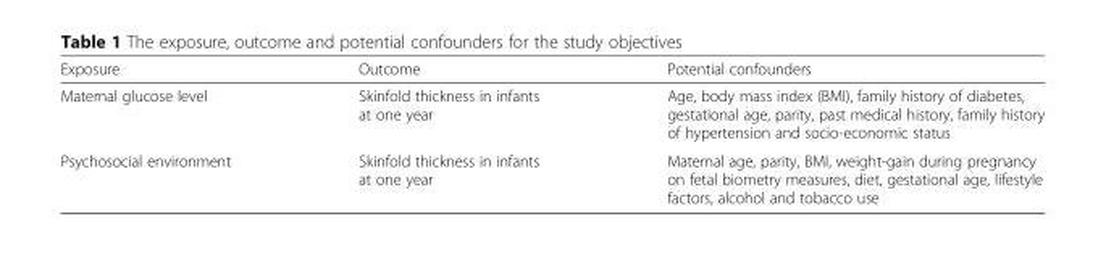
<table><thead><tr><td>Exposure</td><td>Outcome</td><td>Potential confounders</td></tr></thead><tbody><tr><td>Maternal glucose level</td><td>Skinfold thickness in infants at one year</td><td>Age, body mass index (BMI), family history of diabetes, gestational age, parity, past medical history, family history of hypertension and socio-economic status</td></tr><tr><td>Psychosocial environment</td><td>Skinfold thickness in infants at one year</td><td>Maternal age, parity, BMI, weight-gain during pregnancy on fetal biometry measures, diet, gestational age, lifestyle factors, alcohol and tobacco use</td></tr></tbody></table>